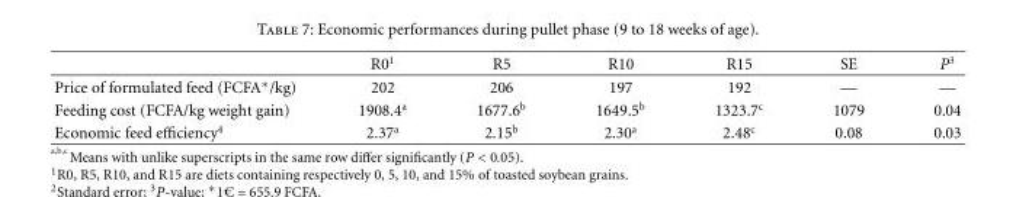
<table><thead><tr><td></td><td>R0<sup>1</sup></td><td>R5</td><td>R10</td><td>R15</td><td>SE</td><td>P<sup>3</sup></td></tr></thead><tbody><tr><td>Price of formulated feed (FCFA∗/kg)</td><td>202</td><td>206</td><td>197</td><td>192</td><td>—</td><td>—</td></tr><tr><td>Feeding cost (FCFA/kg weight gain)</td><td>1908.4<sup>a</sup></td><td>1677.6<sup>b</sup></td><td>1649.5<sup>b</sup></td><td>1323.7<sup>c</sup></td><td>1079</td><td>0.04</td></tr><tr><td>Economic feed efficiency<sup>4</sup></td><td>2.37<sup>a</sup></td><td>2.15<sup>b</sup></td><td>2.30<sup>a</sup></td><td>2.48<sup>c</sup></td><td>0.08</td><td>0.03</td></tr></tbody></table>